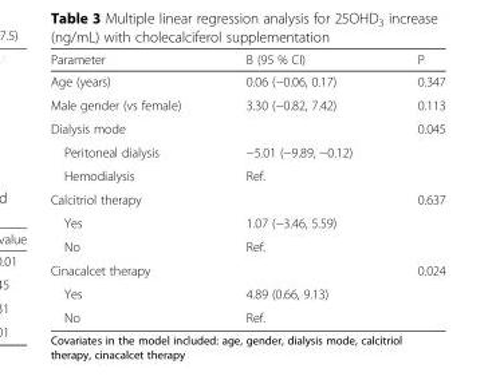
<table><thead><tr><td>Parameter</td><td>Β (95 % CI)</td><td>P</td></tr></thead><tbody><tr><td>Age (years)</td><td>0.06 (−0.06, 0.17)</td><td>0.347</td></tr><tr><td>Male gender (vs female)</td><td>3.30 (−0.82, 7.42)</td><td>0.113</td></tr><tr><td>Dialysis mode</td><td></td><td>0.045</td></tr><tr><td>Peritoneal dialysis</td><td>−5.01 (−9.89, −0.12)</td><td></td></tr><tr><td>Hemodialysis</td><td>Ref.</td><td></td></tr><tr><td>Calcitriol therapy</td><td></td><td>0.637</td></tr><tr><td>Yes</td><td>1.07 (−3.46, 5.59)</td><td></td></tr><tr><td>No</td><td>Ref.</td><td></td></tr><tr><td>Cinacalcet therapy</td><td></td><td>0.024</td></tr><tr><td>Yes</td><td>4.89 (0.66, 9.13)</td><td></td></tr><tr><td>No</td><td>Ref.</td><td></td></tr></tbody></table>